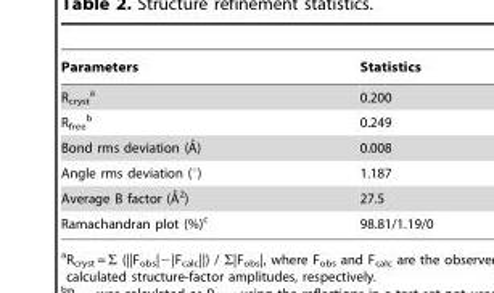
<table><thead><tr><td>Parameters</td><td>Statistics</td></tr></thead><tbody><tr><td>R<sub>cryst</sub> a</td><td>0.200</td></tr><tr><td>R<sub>free</sub> b</td><td>0.249</td></tr><tr><td>Bond rms deviation (A˚)</td><td>0.008</td></tr><tr><td>Angle rms deviation (°)</td><td>1.187</td></tr><tr><td>Average B factor (A˚2)</td><td>27.5</td></tr><tr><td>Ramachandran plot (%)<sup>c</sup></td><td>98.81/1.19/0</td></tr></tbody></table>